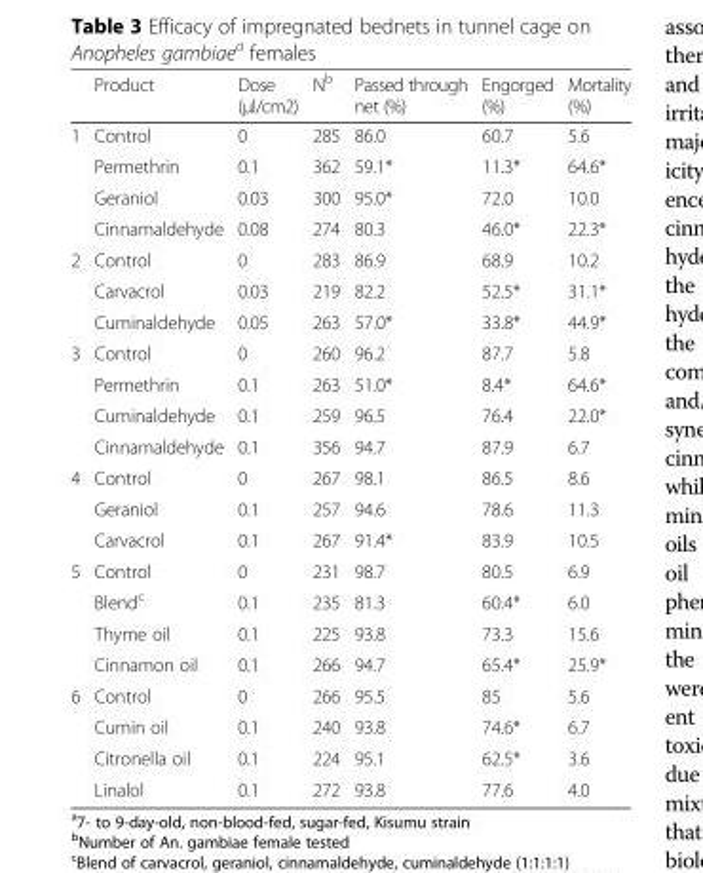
<table><thead><tr><td></td><td>Product</td><td>Dose (μl/cm2)</td><td>N<sup>b</sup></td><td>Passed through net (%)</td><td>Engorged (%)</td><td>Mortality (%)</td></tr></thead><tbody><tr><td rowspan="4">1</td><td>Control</td><td>0</td><td>285</td><td>86.0</td><td>60.7</td><td>5.6</td></tr><tr><td>Permethrin</td><td>0.1</td><td>362</td><td>59.1*</td><td>11.3*</td><td>64.6*</td></tr><tr><td>Geraniol</td><td>0.03</td><td>300</td><td>95.0*</td><td>72.0</td><td>10.0</td></tr><tr><td>Cinnamaldehyde</td><td>0.08</td><td>274</td><td>80.3</td><td>46.0*</td><td>22.3*</td></tr><tr><td rowspan="3">2</td><td>Control</td><td>0</td><td>283</td><td>86.9</td><td>68.9</td><td>10.2</td></tr><tr><td>Carvacrol</td><td>0.03</td><td>219</td><td>82.2</td><td>52.5*</td><td>31.1*</td></tr><tr><td>Cuminaldehyde</td><td>0.05</td><td>263</td><td>57.0*</td><td>33.8*</td><td>44.9*</td></tr><tr><td rowspan="4">3</td><td>Control</td><td>0</td><td>260</td><td>96.2</td><td>87.7</td><td>5.8</td></tr><tr><td>Permethrin</td><td>0.1</td><td>263</td><td>51.0*</td><td>8.4*</td><td>64.6*</td></tr><tr><td>Cuminaldehyde</td><td>0.1</td><td>259</td><td>96.5</td><td>76.4</td><td>22.0*</td></tr><tr><td>Cinnamaldehyde</td><td>0.1</td><td>356</td><td>94.7</td><td>87.9</td><td>6.7</td></tr><tr><td rowspan="3">4</td><td>Control</td><td>0</td><td>267</td><td>98.1</td><td>86.5</td><td>8.6</td></tr><tr><td>Geraniol</td><td>0.1</td><td>257</td><td>94.6</td><td>78.6</td><td>11.3</td></tr><tr><td>Carvacrol</td><td>0.1</td><td>267</td><td>91.4*</td><td>83.9</td><td>10.5</td></tr><tr><td rowspan="4">5</td><td>Control</td><td>0</td><td>231</td><td>98.7</td><td>80.5</td><td>6.9</td></tr><tr><td>Blend<sup>c</sup></td><td>0.1</td><td>235</td><td>81.3</td><td>60.4*</td><td>6.0</td></tr><tr><td>Thyme oil</td><td>0.1</td><td>225</td><td>93.8</td><td>73.3</td><td>15.6</td></tr><tr><td>Cinnamon oil</td><td>0.1</td><td>266</td><td>94.7</td><td>65.4*</td><td>25.9*</td></tr><tr><td rowspan="4">6</td><td>Control</td><td>0</td><td>266</td><td>95.5</td><td>85</td><td>5.6</td></tr><tr><td>Cumin oil</td><td>0.1</td><td>240</td><td>93.8</td><td>74.6*</td><td>6.7</td></tr><tr><td>Citronella oil</td><td>0.1</td><td>224</td><td>95.1</td><td>62.5*</td><td>3.6</td></tr><tr><td>Linalol</td><td>0.1</td><td>272</td><td>93.8</td><td>77.6</td><td>4.0</td></tr></tbody></table>